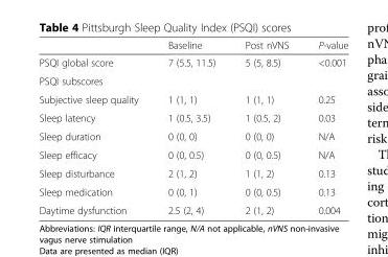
<table><thead><tr><td></td><td>Baseline</td><td>Post nVNS</td><td>P-value</td></tr></thead><tbody><tr><td>PSQI global score</td><td>7 (5.5, 11.5)</td><td>5 (5, 8.5)</td><td>&lt;0.001</td></tr><tr><td colspan="4">PSQI subscores</td></tr><tr><td>Subjective sleep quality</td><td>1 (1, 1)</td><td>1 (1, 1)</td><td>0.25</td></tr><tr><td>Sleep latency</td><td>1 (0.5, 3.5)</td><td>1 (0.5, 2)</td><td>0.03</td></tr><tr><td>Sleep duration</td><td>0 (0, 0)</td><td>0 (0, 0)</td><td>N/A</td></tr><tr><td>Sleep efficacy</td><td>0 (0, 0.5)</td><td>0 (0, 0.5)</td><td>N/A</td></tr><tr><td>Sleep disturbance</td><td>2 (1, 2)</td><td>1 (1, 2)</td><td>0.13</td></tr><tr><td>Sleep medication</td><td>0 (0, 1)</td><td>0 (0, 0.5)</td><td>0.13</td></tr><tr><td>Daytime dysfunction</td><td>2.5 (2, 4)</td><td>2 (1, 2)</td><td>0.004</td></tr></tbody></table>